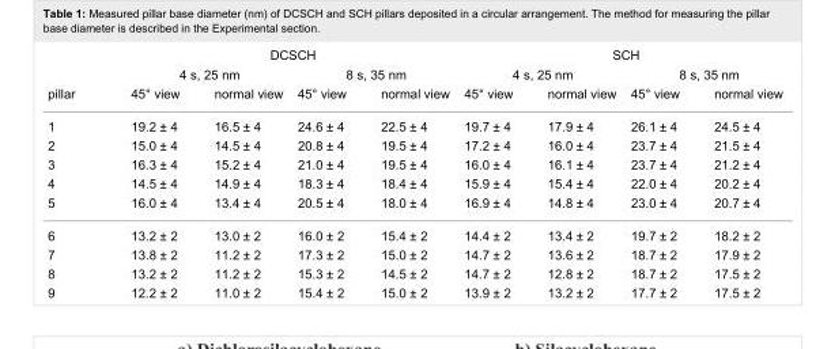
<table><thead><tr><td rowspan="3">pillar</td><td colspan="4">DCSCH</td><td colspan="4">SCH</td></tr><tr><td colspan="2">4 s, 25 nm</td><td colspan="2">8 s, 35 nm</td><td colspan="2">4 s, 25 nm</td><td colspan="2">8 s, 35 nm</td></tr><tr><td>45° view</td><td>normal view</td><td>45° view</td><td>normal view</td><td>45° view</td><td>normal view</td><td>45° view</td><td>normal view</td></tr></thead><tbody><tr><td>1</td><td>19.2 ± 4</td><td>16.5 ± 4</td><td>24.6 ± 4</td><td>22.5 ± 4</td><td>19.7 ± 4</td><td>17.9 ± 4</td><td>26.1 ± 4</td><td>24.5 ± 4</td></tr><tr><td>2</td><td>15.0 ± 4</td><td>14.5 ± 4</td><td>20.8 ± 4</td><td>19.5 ± 4</td><td>17.2 ± 4</td><td>16.0 ± 4</td><td>23.7 ± 4</td><td>21.5 ± 4</td></tr><tr><td>3</td><td>16.3 ± 4</td><td>15.2 ± 4</td><td>21.0 ± 4</td><td>19.5 ± 4</td><td>16.0 ± 4</td><td>16.1 ± 4</td><td>23.7 ± 4</td><td>21.2 ± 4</td></tr><tr><td>4</td><td>14.5 ± 4</td><td>14.9 ± 4</td><td>18.3 ± 4</td><td>18.4 ± 4</td><td>15.9 ± 4</td><td>15.4 ± 4</td><td>22.0 ± 4</td><td>20.2 ± 4</td></tr><tr><td>5</td><td>16.0 ± 4</td><td>13.4 ± 4</td><td>20.5 ± 4</td><td>18.0 ± 4</td><td>16.9 ± 4</td><td>14.8 ± 4</td><td>23.0 ± 4</td><td>20.7 ± 4</td></tr><tr><td>6</td><td>13.2 ± 2</td><td>13.0 ± 2</td><td>16.0 ± 2</td><td>15.4 ± 2</td><td>14.4 ± 2</td><td>13.4 ± 2</td><td>19.7 ± 2</td><td>18.2 ± 2</td></tr><tr><td>7</td><td>13.8 ± 2</td><td>11.2 ± 2</td><td>17.3 ± 2</td><td>15.0 ± 2</td><td>14.7 ± 2</td><td>13.6 ± 2</td><td>18.7 ± 2</td><td>17.9 ± 2</td></tr><tr><td>8</td><td>13.2 ± 2</td><td>11.2 ± 2</td><td>15.3 ± 2</td><td>14.5 ± 2</td><td>14.7 ± 2</td><td>12.8 ± 2</td><td>18.7 ± 2</td><td>17.5 ± 2</td></tr><tr><td>9</td><td>12.2 ± 2</td><td>11.0 ± 2</td><td>15.4 ± 2</td><td>15.0 ± 2</td><td>13.9 ± 2</td><td>13.2 ± 2</td><td>17.7 ± 2</td><td>17.5 ± 2</td></tr></tbody></table>